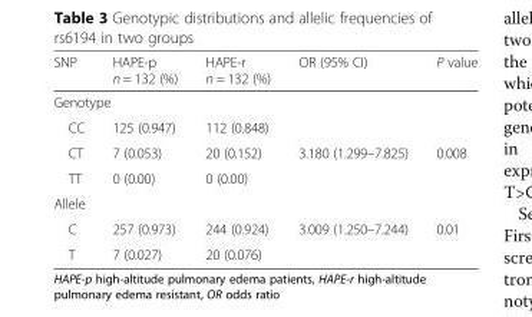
<table><thead><tr><td>SNP</td><td>HAPE-p n = 132 (%)</td><td>HAPE-r n = 132 (%)</td><td>OR (95% CI)</td><td>P value</td></tr></thead><tbody><tr><td colspan="5">Genotype</td></tr><tr><td>CC</td><td>125 (0.947)</td><td>112 (0.848)</td><td></td><td></td></tr><tr><td>CT</td><td>7 (0.053)</td><td>20 (0.152)</td><td>3.180 (1.299–7.825)</td><td>0.008</td></tr><tr><td>TT</td><td>0 (0.00)</td><td>0 (0.00)</td><td></td><td></td></tr><tr><td colspan="5">Allele</td></tr><tr><td>C</td><td>257 (0.973)</td><td>244 (0.924)</td><td>3.009 (1.250–7.244)</td><td>0.01</td></tr><tr><td>T</td><td>7 (0.027)</td><td>20 (0.076)</td><td></td><td></td></tr></tbody></table>